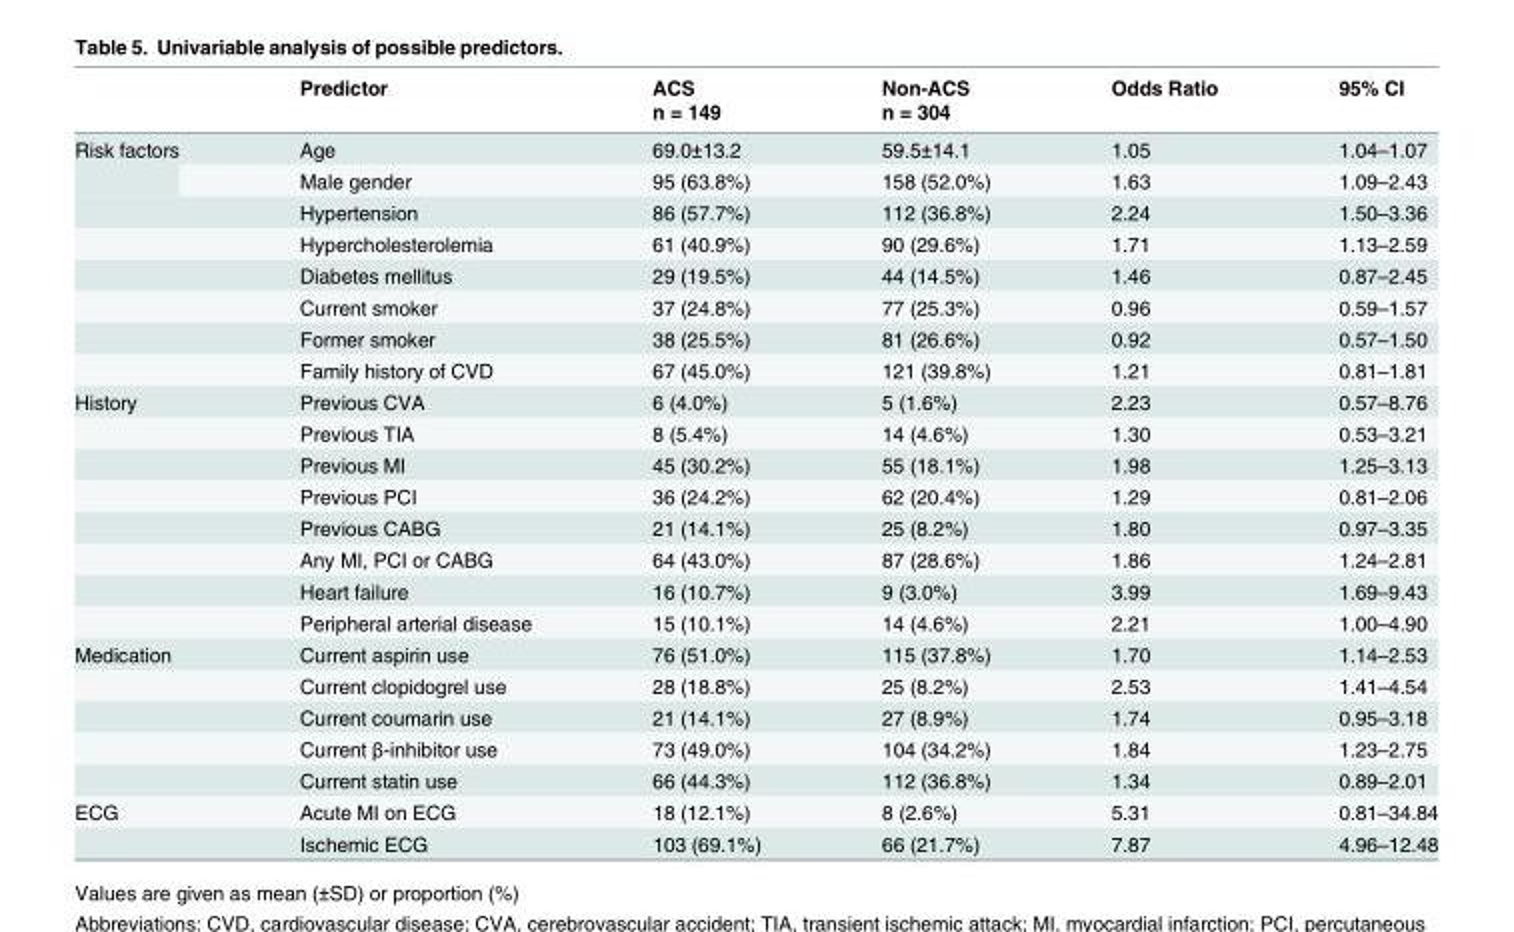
<table><thead><tr><td rowspan="2"></td><td rowspan="2">Predictor</td><td rowspan="2">ACS n = 149</td><td rowspan="2">Non-ACS n = 304</td><td rowspan="2">Odds Ratio</td><td rowspan="2">95% CI</td></tr><tr></tr></thead><tbody><tr><td rowspan="8">Risk factors</td><td>Age</td><td>69.0±13.2</td><td>59.5±14.1</td><td>1.05</td><td>1.04–1.07</td></tr><tr><td>Male gender</td><td>95 (63.8%)</td><td>158 (52.0%)</td><td>1.63</td><td>1.09–2.43</td></tr><tr><td>Hypertension</td><td>86 (57.7%)</td><td>112 (36.8%)</td><td>2.24</td><td>1.50–3.36</td></tr><tr><td>Hypercholesterolemia</td><td>61 (40.9%)</td><td>90 (29.6%)</td><td>1.71</td><td>1.13–2.59</td></tr><tr><td>Diabetes mellitus</td><td>29 (19.5%)</td><td>44 (14.5%)</td><td>1.46</td><td>0.87–2.45</td></tr><tr><td>Current smoker</td><td>37 (24.8%)</td><td>77 (25.3%)</td><td>0.96</td><td>0.59–1.57</td></tr><tr><td>Former smoker</td><td>38 (25.5%)</td><td>81 (26.6%)</td><td>0.92</td><td>0.57–1.50</td></tr><tr><td>Family history of CVD</td><td>67 (45.0%)</td><td>121 (39.8%)</td><td>1.21</td><td>0.81–1.81</td></tr><tr><td rowspan="8">History</td><td>Previous CVA</td><td>6 (4.0%)</td><td>5 (1.6%)</td><td>2.23</td><td>0.57–8.76</td></tr><tr><td>Previous TIA</td><td>8 (5.4%)</td><td>14 (4.6%)</td><td>1.30</td><td>0.53–3.21</td></tr><tr><td>Previous MI</td><td>45 (30.2%)</td><td>55 (18.1%)</td><td>1.98</td><td>1.25–3.13</td></tr><tr><td>Previous PCI</td><td>36 (24.2%)</td><td>62 (20.4%)</td><td>1.29</td><td>0.81–2.06</td></tr><tr><td>Previous CABG</td><td>21 (14.1%)</td><td>25 (8.2%)</td><td>1.80</td><td>0.97–3.35</td></tr><tr><td>Any MI, PCI or CABG</td><td>64 (43.0%)</td><td>87 (28.6%)</td><td>1.86</td><td>1.24–2.81</td></tr><tr><td>Heart failure</td><td>16 (10.7%)</td><td>9 (3.0%)</td><td>3.99</td><td>1.69–9.43</td></tr><tr><td>Peripheral arterial disease</td><td>15 (10.1%)</td><td>14 (4.6%)</td><td>2.21</td><td>1.00–4.90</td></tr><tr><td rowspan="5">Medication</td><td>Current aspirin use</td><td>76 (51.0%)</td><td>115 (37.8%)</td><td>1.70</td><td>1.14–2.53</td></tr><tr><td>Current clopidogrel use</td><td>28 (18.8%)</td><td>25 (8.2%)</td><td>2.53</td><td>1.41–4.54</td></tr><tr><td>Current coumarin use</td><td>21 (14.1%)</td><td>27 (8.9%)</td><td>1.74</td><td>0.95–3.18</td></tr><tr><td>Current β-inhibitor use</td><td>73 (49.0%)</td><td>104 (34.2%)</td><td>1.84</td><td>1.23–2.75</td></tr><tr><td>Current statin use</td><td>66 (44.3%)</td><td>112 (36.8%)</td><td>1.34</td><td>0.89–2.01</td></tr><tr><td rowspan="2">ECG</td><td>Acute MI on ECG</td><td>18 (12.1%)</td><td>8 (2.6%)</td><td>5.31</td><td>0.81–34.84</td></tr><tr><td>Ischemic ECG</td><td>103 (69.1%)</td><td>66 (21.7%)</td><td>7.87</td><td>4.96–12.48</td></tr></tbody></table>